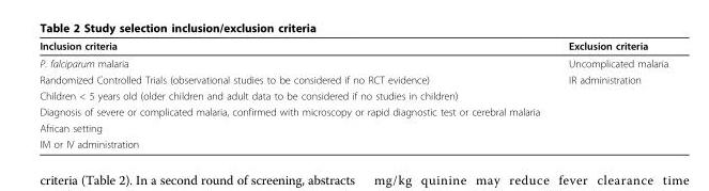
<table><thead><tr><td>Inclusion criteria</td><td>Exclusion criteria</td></tr></thead><tbody><tr><td>P. falciparum malaria</td><td>Uncomplicated malaria</td></tr><tr><td>Randomized Controlled Trials (observational studies to be considered if no RCT evidence)</td><td>IR administration</td></tr><tr><td colspan="2">Children &lt; 5 years old (older children and adult data to be considered if no studies in children)</td></tr><tr><td colspan="2">Diagnosis of severe or complicated malaria, confirmed with microscopy or rapid diagnostic test or cerebral malaria</td></tr><tr><td colspan="2">African setting</td></tr><tr><td>IM or IV administration</td><td></td></tr></tbody></table>